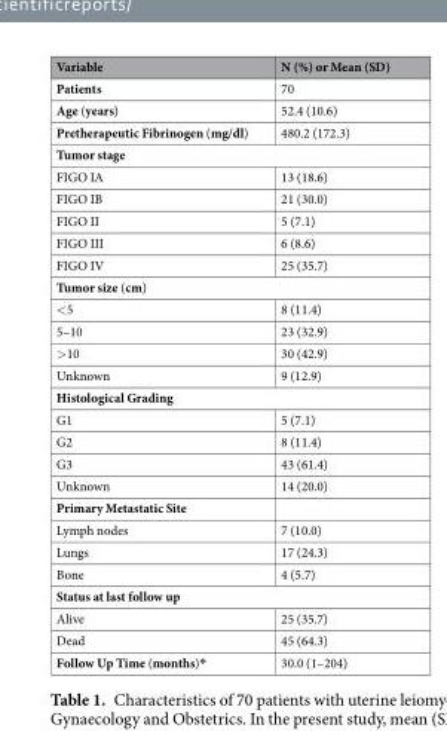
<table><thead><tr><td>Variable</td><td>N (%) or Mean (SD)</td></tr></thead><tbody><tr><td>Patients</td><td>70</td></tr><tr><td>Age (years)</td><td>52.4 (10.6)</td></tr><tr><td>Pretherapeutic Fibrinogen (mg/dl)</td><td>480.2 (172.3)</td></tr><tr><td colspan="2">Tumor stage</td></tr><tr><td>FIGO IA</td><td>13 (18.6)</td></tr><tr><td>FIGO IB</td><td>21 (30.0)</td></tr><tr><td>FIGO II</td><td>5 (7.1)</td></tr><tr><td>FIGO III</td><td>6 (8.6)</td></tr><tr><td>FIGO IV</td><td>25 (35.7)</td></tr><tr><td colspan="2">Tumor size (cm)</td></tr><tr><td>&lt;5</td><td>8 (11.4)</td></tr><tr><td>5–10</td><td>23 (32.9)</td></tr><tr><td>&gt;10</td><td>30 (42.9)</td></tr><tr><td>Unknown</td><td>9 (12.9)</td></tr><tr><td colspan="2">Histological Grading</td></tr><tr><td>G1</td><td>5 (7.1)</td></tr><tr><td>G2</td><td>8 (11.4)</td></tr><tr><td>G3</td><td>43 (61.4)</td></tr><tr><td>Unknown</td><td>14 (20.0)</td></tr><tr><td colspan="2">Primary Metastatic Site</td></tr><tr><td>Lymph nodes</td><td>7 (10.0)</td></tr><tr><td>Lungs</td><td>17 (24.3)</td></tr><tr><td>Bone</td><td>4 (5.7)</td></tr><tr><td colspan="2">Status at last follow up</td></tr><tr><td>Alive</td><td>25 (35.7)</td></tr><tr><td>Dead</td><td>45 (64.3)</td></tr><tr><td>Follow Up Time (months)*</td><td>30.0 (1–204)</td></tr></tbody></table>